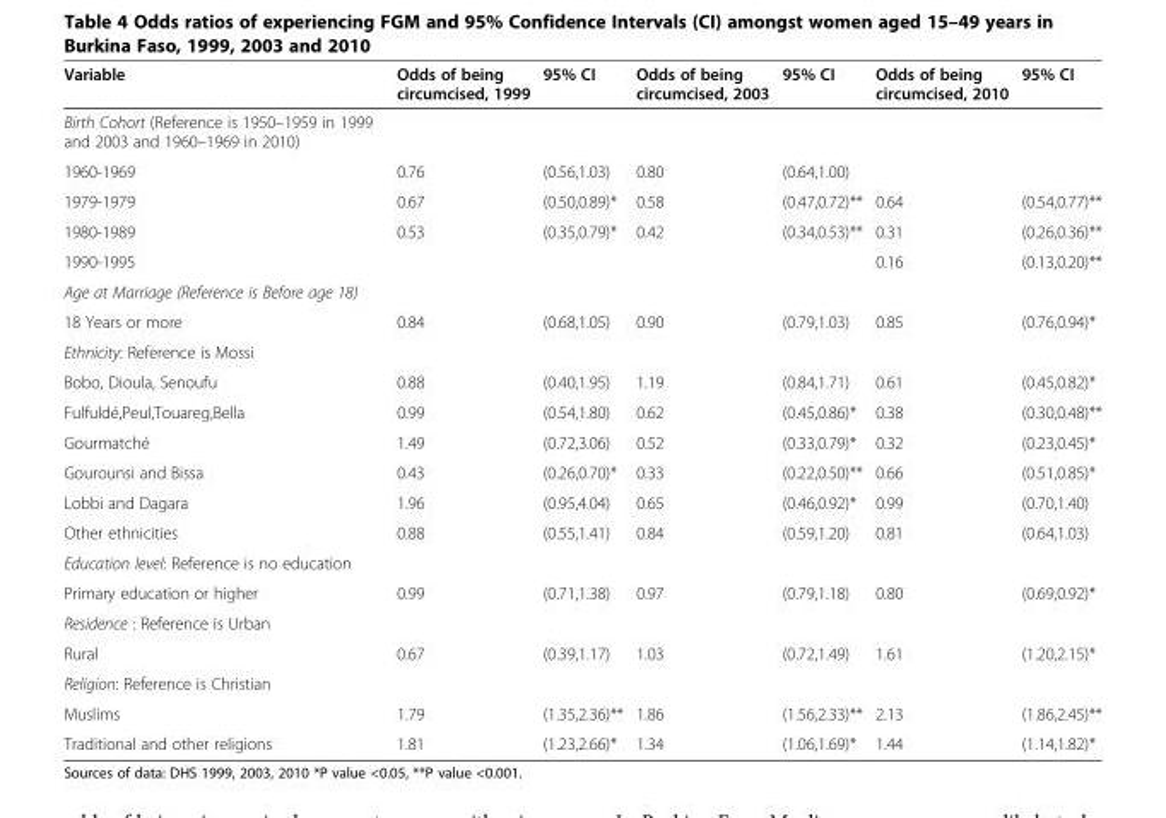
<table><thead><tr><td>Variable</td><td>Odds of being circumcised, 1999</td><td>95% CI</td><td>Odds of being circumcised, 2003</td><td>95% CI</td><td>Odds of being circumcised, 2010</td><td>95% CI</td></tr></thead><tbody><tr><td colspan="7">Birth Cohort (Reference is 1950–1959 in 1999 and 2003 and 1960–1969 in 2010)</td></tr><tr><td>1960-1969</td><td>0.76</td><td>(0.56,1.03)</td><td>0.80</td><td>(0.64,1.00)</td><td></td><td></td></tr><tr><td>1979-1979</td><td>0.67</td><td>(0.50,0.89)*</td><td>0.58</td><td>(0.47,0.72)**</td><td>0.64</td><td>(0.54,0.77)**</td></tr><tr><td>1980-1989</td><td>0.53</td><td>(0.35,0.79)*</td><td>0.42</td><td>(0.34,0.53)**</td><td>0.31</td><td>(0.26,0.36)**</td></tr><tr><td>1990-1995</td><td></td><td></td><td></td><td></td><td>0.16</td><td>(0.13,0.20)**</td></tr><tr><td colspan="7">Age at Marriage (Reference is Before age 18)</td></tr><tr><td>18 Years or more</td><td>0.84</td><td>(0.68,1.05)</td><td>0.90</td><td>(0.79,1.03)</td><td>0.85</td><td>(0.76,0.94)*</td></tr><tr><td colspan="7">Ethnicity: Reference is Mossi</td></tr><tr><td>Bobo, Dioula, Senoufu</td><td>0.88</td><td>(0.40,1.95)</td><td>1.19</td><td>(0.84,1.71)</td><td>0.61</td><td>(0.45,0.82)*</td></tr><tr><td>Fulfuldé,Peul,Touareg,Bella</td><td>0.99</td><td>(0.54,1.80)</td><td>0.62</td><td>(0.45,0.86)*</td><td>0.38</td><td>(0.30,0.48)**</td></tr><tr><td>Gourmatché</td><td>1.49</td><td>(0.72,3.06)</td><td>0.52</td><td>(0.33,0.79)*</td><td>0.32</td><td>(0.23,0.45)*</td></tr><tr><td>Gourounsi and Bissa</td><td>0.43</td><td>(0.26,0.70)*</td><td>0.33</td><td>(0.22,0.50)**</td><td>0.66</td><td>(0.51,0.85)*</td></tr><tr><td>Lobbi and Dagara</td><td>1.96</td><td>(0.95,4.04)</td><td>0.65</td><td>(0.46,0.92)*</td><td>0.99</td><td>(0.70,1.40)</td></tr><tr><td>Other ethnicities</td><td>0.88</td><td>(0.55,1.41)</td><td>0.84</td><td>(0.59,1.20)</td><td>0.81</td><td>(0.64,1.03)</td></tr><tr><td colspan="7">Education level: Reference is no education</td></tr><tr><td>Primary education or higher</td><td>0.99</td><td>(0.71,1.38)</td><td>0.97</td><td>(0.79,1.18)</td><td>0.80</td><td>(0.69,0.92)*</td></tr><tr><td colspan="7">Residence : Reference is Urban</td></tr><tr><td>Rural</td><td>0.67</td><td>(0.39,1.17)</td><td>1.03</td><td>(0.72,1.49)</td><td>1.61</td><td>(1.20,2.15)*</td></tr><tr><td colspan="7">Religion: Reference is Christian</td></tr><tr><td>Muslims</td><td>1.79</td><td>(1.35,2.36)**</td><td>1.86</td><td>(1.56,2.33)**</td><td>2.13</td><td>(1.86,2.45)**</td></tr><tr><td>Traditional and other religions</td><td>1.81</td><td>(1.23,2.66)*</td><td>1.34</td><td>(1.06,1.69)*</td><td>1.44</td><td>(1.14,1.82)*</td></tr></tbody></table>